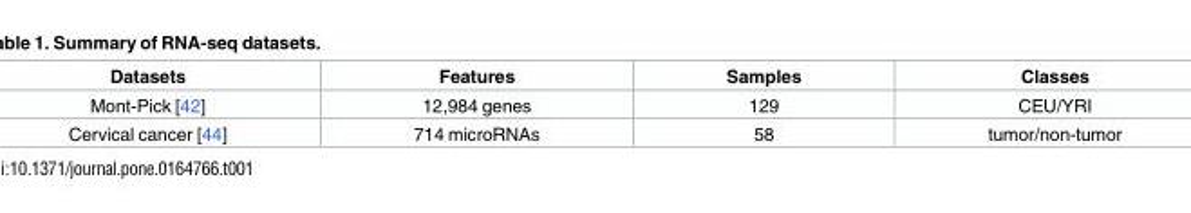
<table><thead><tr><td>Datasets</td><td>Features</td><td>Samples</td><td>Classes</td></tr></thead><tbody><tr><td>Mont-Pick [42]</td><td>12,984 genes</td><td>129</td><td>CEU/YRI</td></tr><tr><td>Cervical cancer [44]</td><td>714 microRNAs</td><td>58</td><td>tumor/non-tumor</td></tr></tbody></table>